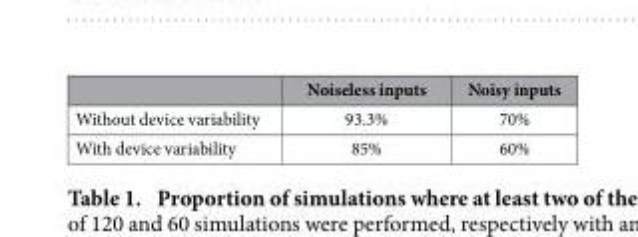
<table><thead><tr><td></td><td>Noiseless inputs</td><td>Noisy inputs</td></tr></thead><tbody><tr><td>Without device variability</td><td>93.3%</td><td>70%</td></tr><tr><td>With device variability</td><td>85%</td><td>60%</td></tr></tbody></table>